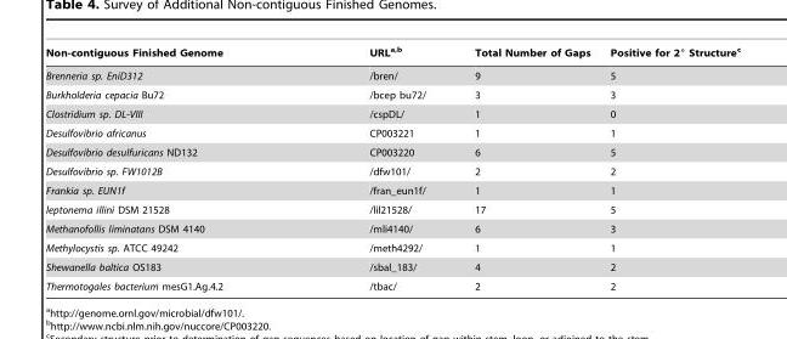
<table><thead><tr><td>Non-contiguous Finished Genome</td><td>URLa,b</td><td>Total Number of Gaps</td><td>Positive for 2° Structure<sup>c</sup></td></tr></thead><tbody><tr><td>Brenneria sp. EniD312</td><td>/bren/</td><td>9</td><td>5</td></tr><tr><td>Burkholderia cepacia Bu72</td><td>/bcep bu72/</td><td>3</td><td>3</td></tr><tr><td>Clostridium sp. DL-VIII</td><td>/cspDL/</td><td>1</td><td>0</td></tr><tr><td>Desulfovibrio africanus</td><td>CP003221</td><td>1</td><td>1</td></tr><tr><td>Desulfovibrio desulfuricans ND132</td><td>CP003220</td><td>6</td><td>5</td></tr><tr><td>Desulfovibrio sp. FW1012B</td><td>/dfw101/</td><td>2</td><td>2</td></tr><tr><td>Frankia sp. EUN1f</td><td>/fran_eun1f/</td><td>1</td><td>1</td></tr><tr><td>leptonema illini DSM 21528</td><td>/lil21528/</td><td>17</td><td>5</td></tr><tr><td>Methanofollis liminatans DSM 4140</td><td>/mli4140/</td><td>6</td><td>3</td></tr><tr><td>Methylocystis sp. ATCC 49242</td><td>/meth4292/</td><td>1</td><td>1</td></tr><tr><td>Shewanella baltica OS183</td><td>/sbal_183/</td><td>4</td><td>2</td></tr><tr><td>Thermotogales bacterium mesG1.Ag.4.2</td><td>/tbac/</td><td>2</td><td>2</td></tr></tbody></table>